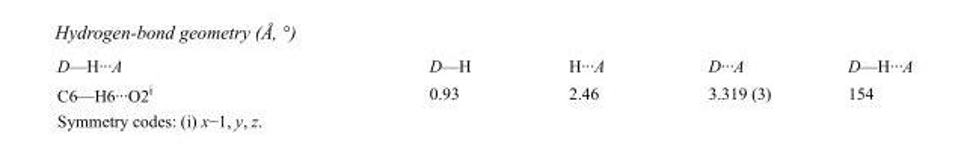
<table><tbody><tr><td>D—H···A</td><td>D—H</td><td>H···A</td><td>D···A</td><td>D—H···A</td></tr><tr><td>C6—H6···O2<sup>i</sup></td><td>0.93</td><td>2.46</td><td>3.319 (3)</td><td>154</td></tr></tbody></table>